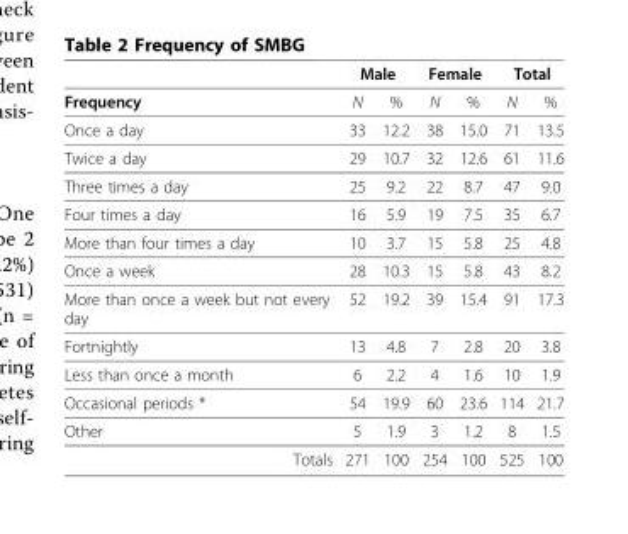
<table><thead><tr><td rowspan="2">Frequency</td><td colspan="2">Male</td><td colspan="2">Female</td><td colspan="2">Total</td></tr><tr><td>N</td><td>%</td><td>N</td><td>%</td><td>N</td><td>%</td></tr></thead><tbody><tr><td>Once a day</td><td>33</td><td>12.2</td><td>38</td><td>15.0</td><td>71</td><td>13.5</td></tr><tr><td>Twice a day</td><td>29</td><td>10.7</td><td>32</td><td>12.6</td><td>61</td><td>11.6</td></tr><tr><td>Three times a day</td><td>25</td><td>9.2</td><td>22</td><td>8.7</td><td>47</td><td>9.0</td></tr><tr><td>Four times a day</td><td>16</td><td>5.9</td><td>19</td><td>7.5</td><td>35</td><td>6.7</td></tr><tr><td>More than four times a day</td><td>10</td><td>3.7</td><td>15</td><td>5.8</td><td>25</td><td>4.8</td></tr><tr><td>Once a week</td><td>28</td><td>10.3</td><td>15</td><td>5.8</td><td>43</td><td>8.2</td></tr><tr><td>More than once a week but not every day</td><td>52</td><td>19.2</td><td>39</td><td>15.4</td><td>91</td><td>17.3</td></tr><tr><td>Fortnightly</td><td>13</td><td>4.8</td><td>7</td><td>2.8</td><td>20</td><td>3.8</td></tr><tr><td>Less than once a month</td><td>6</td><td>2.2</td><td>4</td><td>1.6</td><td>10</td><td>1.9</td></tr><tr><td>Occasional periods *</td><td>54</td><td>19.9</td><td>60</td><td>23.6</td><td>114</td><td>21.7</td></tr><tr><td>Other</td><td>5</td><td>1.9</td><td>3</td><td>1.2</td><td>8</td><td>1.5</td></tr><tr><td>Totals</td><td>271</td><td>100</td><td>254</td><td>100</td><td>525</td><td>100</td></tr></tbody></table>